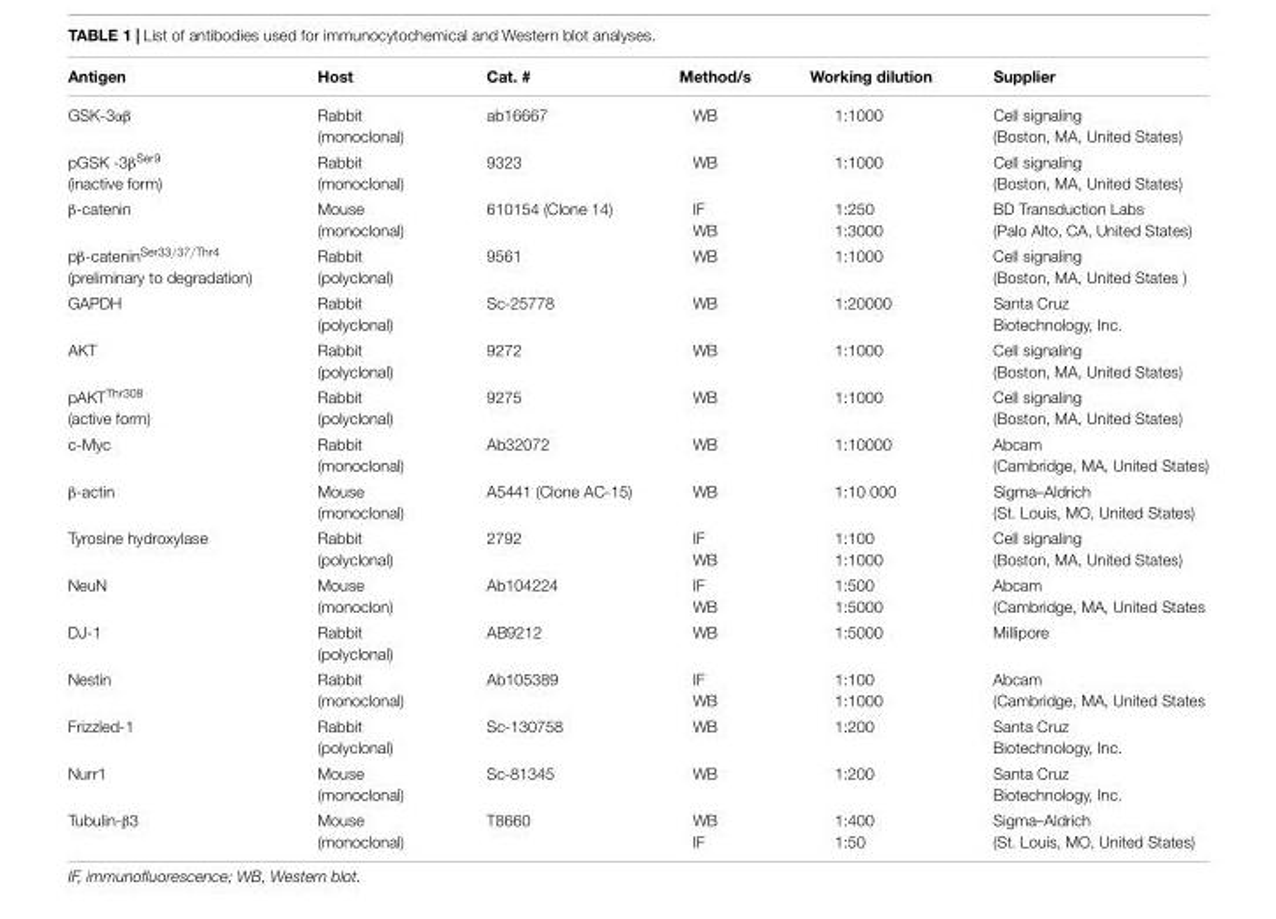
<table><thead><tr><td>Antigen</td><td>Host</td><td>Cat. #</td><td>Method/s</td><td>Working dilution</td><td>Supplier</td></tr></thead><tbody><tr><td>GSK-3αβ</td><td>Rabbit (monoclonal)</td><td>ab16667</td><td>WB</td><td>1:1000</td><td>Cell signaling (Boston, MA, United States)</td></tr><tr><td>pGSK -3β<sup>Ser9</sup> (inactive form)</td><td>Rabbit (monoclonal)</td><td>9323</td><td>WB</td><td>1:1000</td><td>Cell signaling (Boston, MA, United States)</td></tr><tr><td>β-catenin</td><td>Mouse (monoclonal)</td><td>610154 (Clone 14)</td><td>IF WB</td><td>1:250 1:3000</td><td>BD Transduction Labs (Palo Alto, CA, United States)</td></tr><tr><td>pβ-catenin<sup>Ser33/37/Thr4</sup> (preliminary to degradation)</td><td>Rabbit (polyclonal)</td><td>9561</td><td>WB</td><td>1:1000</td><td>Cell signaling (Boston, MA, United States )</td></tr><tr><td>GAPDH</td><td>Rabbit (polyclonal)</td><td>Sc-25778</td><td>WB</td><td>1:20000</td><td>Santa Cruz Biotechnology, Inc.</td></tr><tr><td>AKT</td><td>Rabbit (polyclonal)</td><td>9272</td><td>WB</td><td>1:1000</td><td>Cell signaling (Boston, MA, United States)</td></tr><tr><td>pAKT<sup>Thr308</sup> (active form)</td><td>Rabbit (polyclonal)</td><td>9275</td><td>WB</td><td>1:1000</td><td>Cell signaling (Boston, MA, United States)</td></tr><tr><td>c-Myc</td><td>Rabbit (monoclonal)</td><td>Ab32072</td><td>WB</td><td>1:10000</td><td>Abcam (Cambridge, MA, United States)</td></tr><tr><td>β-actin</td><td>Mouse (monoclonal)</td><td>A5441 (Clone AC-15)</td><td>WB</td><td>1:10 000</td><td>Sigma–Aldrich (St. Louis, MO, United States)</td></tr><tr><td>Tyrosine hydroxylase</td><td>Rabbit (polyclonal)</td><td>2792</td><td>IF WB</td><td>1:100 1:1000</td><td>Cell signaling (Boston, MA, United States)</td></tr><tr><td>NeuN</td><td>Mouse (monoclon)</td><td>Ab104224</td><td>IF WB</td><td>1:500 1:5000</td><td>Abcam (Cambridge, MA, United States</td></tr><tr><td>DJ-1</td><td>Rabbit (polyclonal)</td><td>AB9212</td><td>WB</td><td>1:5000</td><td>Millipore</td></tr><tr><td>Nestin</td><td>Rabbit (monoclonal)</td><td>Ab105389</td><td>IF WB</td><td>1:100 1:1000</td><td>Abcam (Cambridge, MA, United States</td></tr><tr><td>Frizzled-1</td><td>Rabbit (polyclonal)</td><td>Sc-130758</td><td>WB</td><td>1:200</td><td>Santa Cruz Biotechnology, Inc.</td></tr><tr><td>Nurr1</td><td>Mouse (monoclonal)</td><td>Sc-81345</td><td>WB</td><td>1:200</td><td>Santa Cruz Biotechnology, Inc.</td></tr><tr><td>Tubulin-β3</td><td>Mouse (monoclonal)</td><td>T8660</td><td>WB IF</td><td>1:400 1:50</td><td>Sigma–Aldrich (St. Louis, MO, United States)</td></tr></tbody></table>